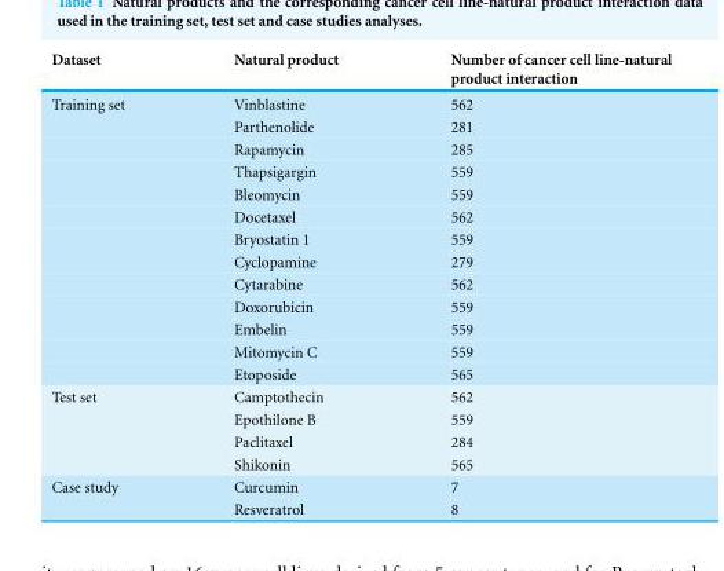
<table><thead><tr><td>Dataset</td><td>Natural product</td><td>Number of cancer cell line-natural product interaction</td></tr></thead><tbody><tr><td rowspan="13">Training set</td><td>Vinblastine</td><td>562</td></tr><tr><td>Parthenolide</td><td>281</td></tr><tr><td>Rapamycin</td><td>285</td></tr><tr><td>Thapsigargin</td><td>559</td></tr><tr><td>Bleomycin</td><td>559</td></tr><tr><td>Docetaxel</td><td>562</td></tr><tr><td>Bryostatin 1</td><td>559</td></tr><tr><td>Cyclopamine</td><td>279</td></tr><tr><td>Cytarabine</td><td>562</td></tr><tr><td>Doxorubicin</td><td>559</td></tr><tr><td>Embelin</td><td>559</td></tr><tr><td>Mitomycin C</td><td>559</td></tr><tr><td>Etoposide</td><td>565</td></tr><tr><td rowspan="4">Test set</td><td>Camptothecin</td><td>562</td></tr><tr><td>Epothilone B</td><td>559</td></tr><tr><td>Paclitaxel</td><td>284</td></tr><tr><td>Shikonin</td><td>565</td></tr><tr><td rowspan="2">Case study</td><td>Curcumin</td><td>7</td></tr><tr><td>Resveratrol</td><td>8</td></tr></tbody></table>